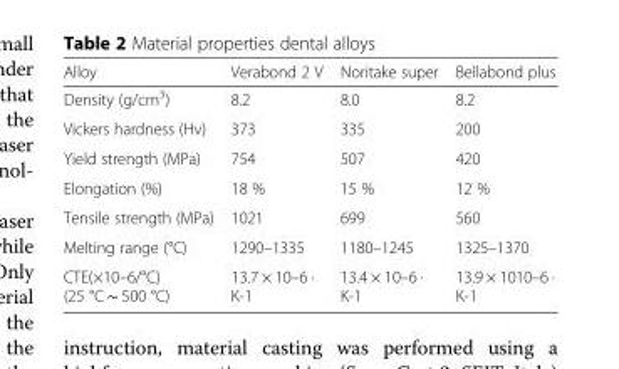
<table><thead><tr><td>Alloy</td><td>Verabond 2 V</td><td>Noritake super</td><td>Bellabond plus</td></tr></thead><tbody><tr><td>Density (g/cm<sup>3</sup>)</td><td>8.2</td><td>8.0</td><td>8.2</td></tr><tr><td>Vickers hardness (Hv)</td><td>373</td><td>335</td><td>200</td></tr><tr><td>Yield strength (MPa)</td><td>754</td><td>507</td><td>420</td></tr><tr><td>Elongation (%)</td><td>18 %</td><td>15 %</td><td>12 %</td></tr><tr><td>Tensile strength (MPa)</td><td>1021</td><td>699</td><td>560</td></tr><tr><td>Melting range (°C)</td><td>1290–1335</td><td>1180–1245</td><td>1325–1370</td></tr><tr><td>CTE(×10–6/°C) (25 °C ∼ 500 °C)</td><td>13.7 × 10–6 · K-1</td><td>13.4 × 10–6 · K-1</td><td>13.9 × 1010–6 · K-1</td></tr></tbody></table>